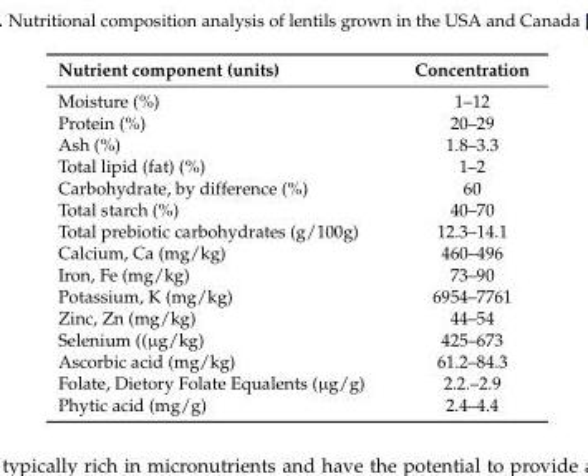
<table><thead><tr><td>Nutrient component (units)</td><td>Concentration</td></tr></thead><tbody><tr><td>Moisture (%)</td><td>1–12</td></tr><tr><td>Protein (%)</td><td>20–29</td></tr><tr><td>Ash (%)</td><td>1.8–3.3</td></tr><tr><td>Total lipid (fat) (%)</td><td>1–2</td></tr><tr><td>Carbohydrate, by difference (%)</td><td>60</td></tr><tr><td>Total starch (%)</td><td>40–70</td></tr><tr><td>Total prebiotic carbohydrates (g/100g)</td><td>12.3–14.1</td></tr><tr><td>Calcium, Ca (mg/kg)</td><td>460–496</td></tr><tr><td>Iron, Fe (mg/kg)</td><td>73–90</td></tr><tr><td>Potassium, K (mg/kg)</td><td>6954–7761</td></tr><tr><td>Zinc, Zn (mg/kg)</td><td>44–54</td></tr><tr><td>Selenium ((µg/kg)</td><td>425–673</td></tr><tr><td>Ascorbic acid (mg/kg)</td><td>61.2–84.3</td></tr><tr><td>Folate, Dietory Folate Equalents (µg/g)</td><td>2.2.–2.9</td></tr><tr><td>Phytic acid (mg/g)</td><td>2.4–4.4</td></tr></tbody></table>